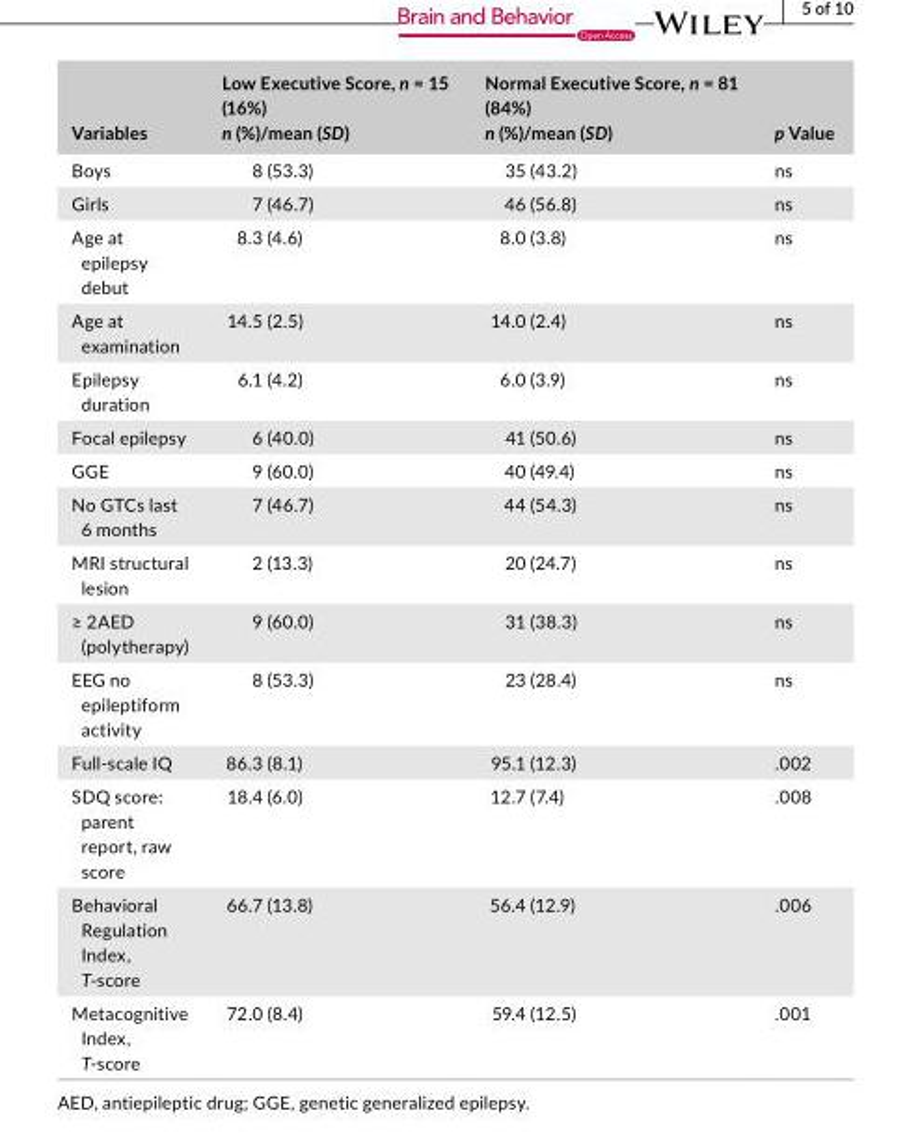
<table><thead><tr><td>Variables</td><td>Low Executive Score, n = 15 (16%) n (%)/mean (SD)</td><td>Normal Executive Score, n = 81 (84%) n (%)/mean (SD)</td><td>p Value</td></tr></thead><tbody><tr><td>Boys</td><td>8 (53.3)</td><td>35 (43.2)</td><td>ns</td></tr><tr><td>Girls</td><td>7 (46.7)</td><td>46 (56.8)</td><td>ns</td></tr><tr><td>Age at epilepsy debut</td><td>8.3 (4.6)</td><td>8.0 (3.8)</td><td>ns</td></tr><tr><td>Age at examination</td><td>14.5 (2.5)</td><td>14.0 (2.4)</td><td>ns</td></tr><tr><td>Epilepsy duration</td><td>6.1 (4.2)</td><td>6.0 (3.9)</td><td>ns</td></tr><tr><td>Focal epilepsy</td><td>6 (40.0)</td><td>41 (50.6)</td><td>ns</td></tr><tr><td>GGE</td><td>9 (60.0)</td><td>40 (49.4)</td><td>ns</td></tr><tr><td>No GTCs last 6 months</td><td>7 (46.7)</td><td>44 (54.3)</td><td>ns</td></tr><tr><td>MRI structural lesion</td><td>2 (13.3)</td><td>20 (24.7)</td><td>ns</td></tr><tr><td>≥ 2AED (polytherapy)</td><td>9 (60.0)</td><td>31 (38.3)</td><td>ns</td></tr><tr><td>EEG no epileptiform activity</td><td>8 (53.3)</td><td>23 (28.4)</td><td>ns</td></tr><tr><td>Full- scale IQ</td><td>86.3 (8.1)</td><td>95.1 (12.3)</td><td>.002</td></tr><tr><td>SDQ score: parent report, raw score</td><td>18.4 (6.0)</td><td>12.7 (7.4)</td><td>.008</td></tr><tr><td>Behavioral Regulation Index, T- score</td><td>66.7 (13.8)</td><td>56.4 (12.9)</td><td>.006</td></tr><tr><td>Metacognitive Index, T- score</td><td>72.0 (8.4)</td><td>59.4 (12.5)</td><td>.001</td></tr></tbody></table>